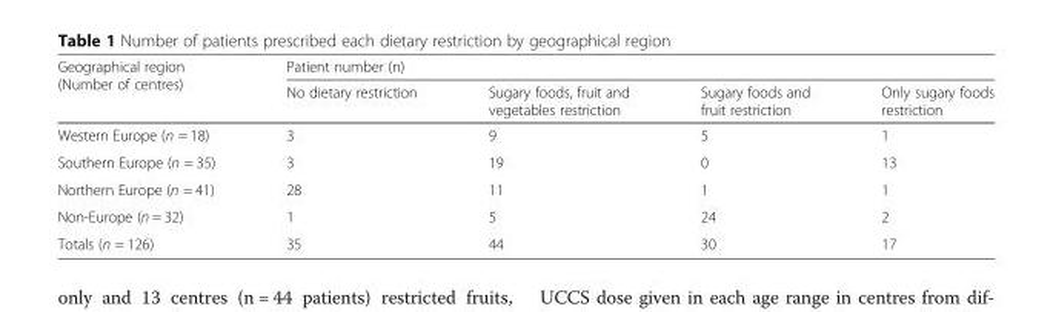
<table><thead><tr><td rowspan="2">Geographical region (Number of centres)</td><td colspan="4">Patient number (n)</td></tr><tr><td>No dietary restriction</td><td>Sugary foods, fruit and vegetables restriction</td><td>Sugary foods and fruit restriction</td><td>Only sugary foods restriction</td></tr></thead><tbody><tr><td>Western Europe (n = 18)</td><td>3</td><td>9</td><td>5</td><td>1</td></tr><tr><td>Southern Europe (n = 35)</td><td>3</td><td>19</td><td>0</td><td>13</td></tr><tr><td>Northern Europe (n = 41)</td><td>28</td><td>11</td><td>1</td><td>1</td></tr><tr><td>Non-Europe (n = 32)</td><td>1</td><td>5</td><td>24</td><td>2</td></tr><tr><td>Totals (n = 126)</td><td>35</td><td>44</td><td>30</td><td>17</td></tr></tbody></table>